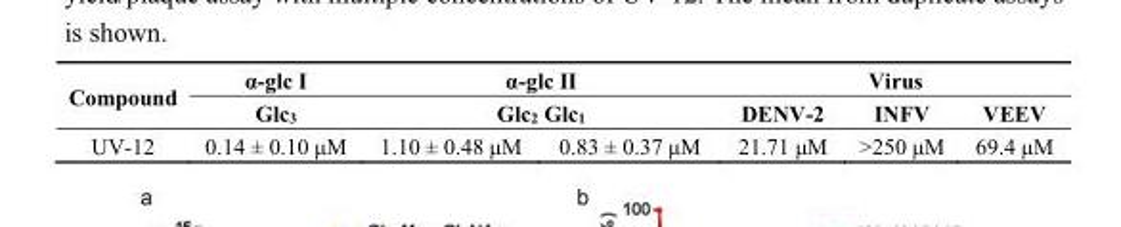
<table><thead><tr><td rowspan="3">Compound UV-12</td><td rowspan="3">α-glc I Glc<sub>3</sub> 0.14 ± 0.10 μM</td><td rowspan="2" colspan="2">α-glc II Glc<sub>2</sub> Glc<sub>1</sub></td><td colspan="3">Virus</td></tr><tr><td rowspan="2">DENV-2 21.71 μM</td><td rowspan="2">INFV &gt;250 μM</td><td rowspan="2">VEEV 69.4 μM</td></tr><tr><td>1.10 ± 0.48 μM</td><td>0.83 ± 0.37 μM</td></tr></thead><tbody></tbody></table>